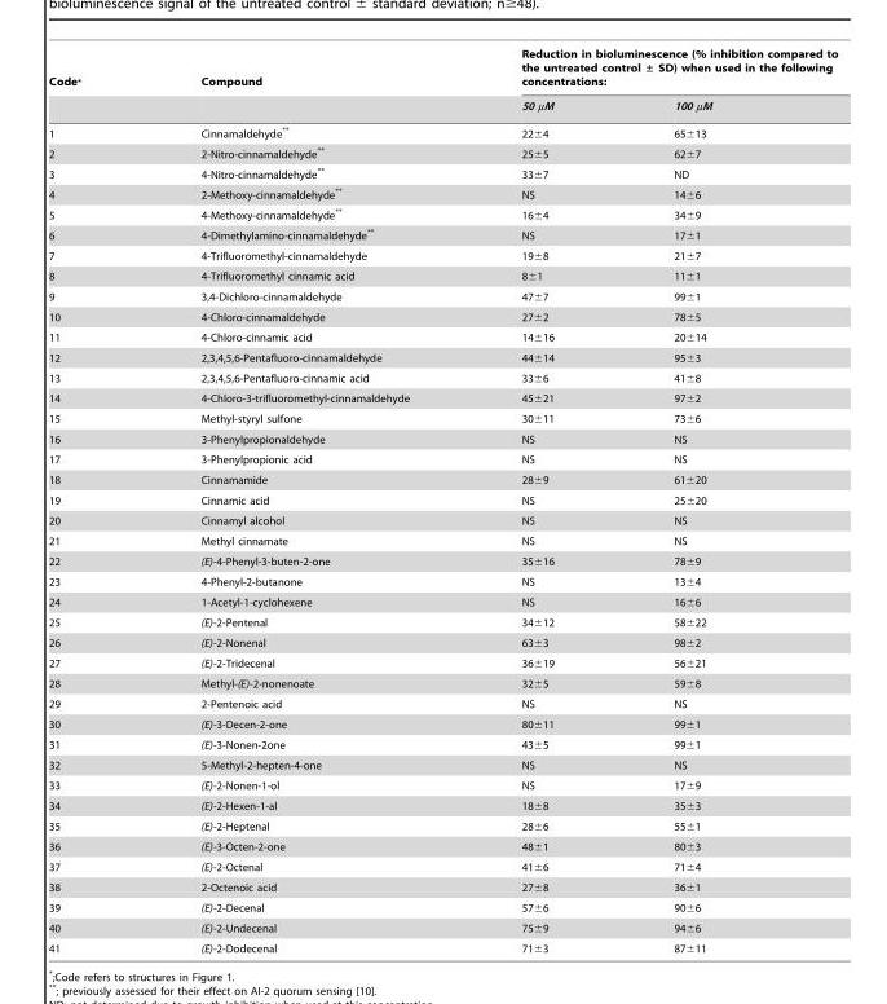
<table><thead><tr><td rowspan="2">Code*</td><td rowspan="2">Compound</td><td colspan="2">Reduction in bioluminescence (% inhibition compared to the untreated control ± SD) when used in the following concentrations:</td></tr><tr><td>50 µM</td><td>100 µM</td></tr></thead><tbody><tr><td>1</td><td>Cinnamaldehyde**</td><td>22±4</td><td>65±13</td></tr><tr><td>2</td><td>2-Nitro-cinnamaldehyde**</td><td>25±5</td><td>62±7</td></tr><tr><td>3</td><td>4-Nitro-cinnamaldehyde**</td><td>33±7</td><td>ND</td></tr><tr><td>4</td><td>2-Methoxy-cinnamaldehyde**</td><td>NS</td><td>14±6</td></tr><tr><td>5</td><td>4-Methoxy-cinnamaldehyde**</td><td>16±4</td><td>34±9</td></tr><tr><td>6</td><td>4-Dimethylamino-cinnamaldehyde**</td><td>NS</td><td>17±1</td></tr><tr><td>7</td><td>4-Trifluoromethyl-cinnamaldehyde</td><td>19±8</td><td>21±7</td></tr><tr><td>8</td><td>4-Trifluoromethyl cinnamic acid</td><td>8±1</td><td>11±1</td></tr><tr><td>9</td><td>3,4-Dichloro-cinnamaldehyde</td><td>47±7</td><td>99±1</td></tr><tr><td>10</td><td>4-Chloro-cinnamaldehyde</td><td>27±2</td><td>78±5</td></tr><tr><td>11</td><td>4-Chloro-cinnamic acid</td><td>14±16</td><td>20±14</td></tr><tr><td>12</td><td>2,3,4,5,6-Pentafluoro-cinnamaldehyde</td><td>44±14</td><td>95±3</td></tr><tr><td>13</td><td>2,3,4,5,6-Pentafluoro-cinnamic acid</td><td>33±6</td><td>41±8</td></tr><tr><td>14</td><td>4-Chloro-3-trifluoromethyl-cinnamaldehyde</td><td>45±21</td><td>97±2</td></tr><tr><td>15</td><td>Methyl-styryl sulfone</td><td>30±11</td><td>73±6</td></tr><tr><td>16</td><td>3-Phenylpropionaldehyde</td><td>NS</td><td>NS</td></tr><tr><td>17</td><td>3-Phenylpropionic acid</td><td>NS</td><td>NS</td></tr><tr><td>18</td><td>Cinnamamide</td><td>28±9</td><td>61±20</td></tr><tr><td>19</td><td>Cinnamic acid</td><td>NS</td><td>25±20</td></tr><tr><td>20</td><td>Cinnamyl alcohol</td><td>NS</td><td>NS</td></tr><tr><td>21</td><td>Methyl cinnamate</td><td>NS</td><td>NS</td></tr><tr><td>22</td><td>(E)-4-Phenyl-3-buten-2-one</td><td>35±16</td><td>78±9</td></tr><tr><td>23</td><td>4-Phenyl-2-butanone</td><td>NS</td><td>13±4</td></tr><tr><td>24</td><td>1-Acetyl-1-cyclohexene</td><td>NS</td><td>16±6</td></tr><tr><td>25</td><td>(E)-2-Pentenal</td><td>34±12</td><td>58±22</td></tr><tr><td>26</td><td>(E)-2-Nonenal</td><td>63±3</td><td>98±2</td></tr><tr><td>27</td><td>(E)-2-Tridecenal</td><td>36±19</td><td>56±21</td></tr><tr><td>28</td><td>Methyl-(E)-2-nonenoate</td><td>32±5</td><td>59±8</td></tr><tr><td>29</td><td>2-Pentenoic acid</td><td>NS</td><td>NS</td></tr><tr><td>30</td><td>(E)-3-Decen-2-one</td><td>80±11</td><td>99±1</td></tr><tr><td>31</td><td>(E)-3-Nonen-2one</td><td>43±5</td><td>99±1</td></tr><tr><td>32</td><td>5-Methyl-2-hepten-4-one</td><td>NS</td><td>NS</td></tr><tr><td>33</td><td>(E)-2-Nonen-1-ol</td><td>NS</td><td>17±9</td></tr><tr><td>34</td><td>(E)-2-Hexen-1-al</td><td>18±8</td><td>35±3</td></tr><tr><td>35</td><td>(E)-2-Heptenal</td><td>28±6</td><td>55±1</td></tr><tr><td>36</td><td>(E)-3-Octen-2-one</td><td>48±1</td><td>80±3</td></tr><tr><td>37</td><td>(E)-2-Octenal</td><td>41±6</td><td>71±4</td></tr><tr><td>38</td><td>2-Octenoic acid</td><td>27±8</td><td>36±1</td></tr><tr><td>39</td><td>(E)-2-Decenal</td><td>57±6</td><td>90±6</td></tr><tr><td>40</td><td>(E)-2-Undecenal</td><td>75±9</td><td>94±6</td></tr><tr><td>41</td><td>(E)-2-Dodecenal</td><td>71±3</td><td>87±11</td></tr></tbody></table>